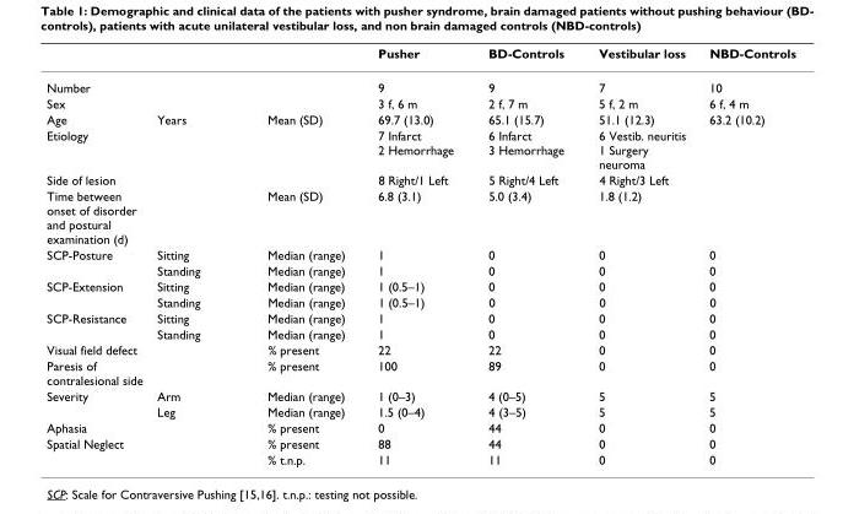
<table><thead><tr><td></td><td></td><td></td><td>Pusher</td><td>BD-Controls</td><td>Vestibular loss</td><td>NBD-Controls</td></tr></thead><tbody><tr><td>Number</td><td></td><td></td><td>9</td><td>9</td><td>7</td><td>10</td></tr><tr><td>Sex</td><td></td><td></td><td>3 f, 6 m</td><td>2 f, 7 m</td><td>5 f, 2 m</td><td>6 f, 4 m</td></tr><tr><td>Age</td><td>Years</td><td>Mean (SD)</td><td>69.7 (13.0)</td><td>65.1 (15.7)</td><td>51.1 (12.3)</td><td>63.2 (10.2)</td></tr><tr><td>Etiology</td><td></td><td></td><td>7 Infarct 2 Hemorrhage</td><td>6 Infarct 3 Hemorrhage</td><td>6 Vestib. neuritis 1 Surgery neuroma</td><td></td></tr><tr><td>Side of lesion</td><td></td><td></td><td>8 Right/1 Left</td><td>5 Right/4 Left</td><td>4 Right/3 Left</td><td></td></tr><tr><td>Time between onset of disorder and postural examination (d)</td><td></td><td>Mean (SD)</td><td>6.8 (3.1)</td><td>5.0 (3.4)</td><td>1.8 (1.2)</td><td></td></tr><tr><td rowspan="2">SCP-Posture</td><td>Sitting</td><td>Median (range)</td><td>1</td><td>0</td><td>0</td><td>0</td></tr><tr><td>Standing</td><td>Median (range)</td><td>1</td><td>0</td><td>0</td><td>0</td></tr><tr><td rowspan="2">SCP-Extension</td><td>Sitting</td><td>Median (range)</td><td>1 (0.5–1)</td><td>0</td><td>0</td><td>0</td></tr><tr><td>Standing</td><td>Median (range)</td><td>1 (0.5–1)</td><td>0</td><td>0</td><td>0</td></tr><tr><td rowspan="2">SCP-Resistance</td><td>Sitting</td><td>Median (range)</td><td>1</td><td>0</td><td>0</td><td>0</td></tr><tr><td>Standing</td><td>Median (range)</td><td>1</td><td>0</td><td>0</td><td>0</td></tr><tr><td>Visual field defect</td><td></td><td>% present</td><td>22</td><td>22</td><td>0</td><td>0</td></tr><tr><td>Paresis of contralesional side</td><td></td><td>% present</td><td>100</td><td>89</td><td>0</td><td>0</td></tr><tr><td rowspan="2">Severity</td><td>Arm</td><td>Median (range)</td><td>1 (0–3)</td><td>4 (0–5)</td><td>5</td><td>5</td></tr><tr><td>Leg</td><td>Median (range)</td><td>1.5 (0–4)</td><td>4 (3–5)</td><td>5</td><td>5</td></tr><tr><td>Aphasia</td><td></td><td>% present</td><td>0</td><td>44</td><td>0</td><td>0</td></tr><tr><td rowspan="2">Spatial Neglect</td><td></td><td>% present</td><td>88</td><td>44</td><td>0</td><td>0</td></tr><tr><td></td><td>% t.n.p.</td><td>11</td><td>11</td><td>0</td><td>0</td></tr></tbody></table>